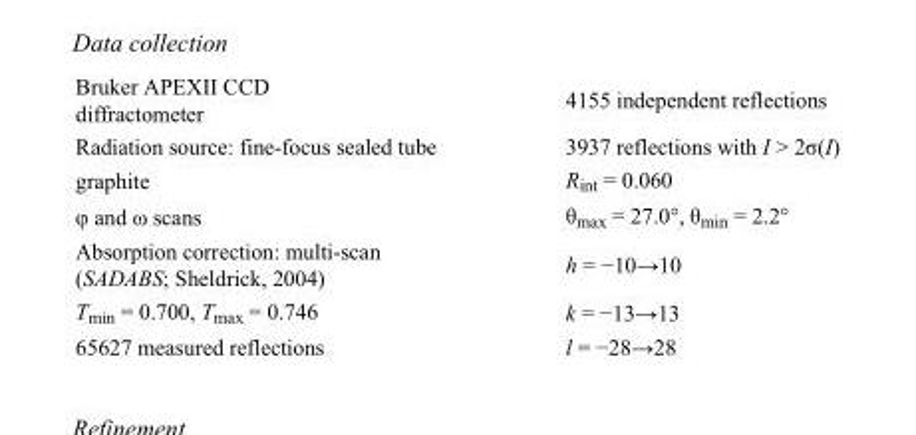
<table><tbody><tr><td>Bruker APEXII CCD diffractometer</td><td>4155 independent reflections</td></tr><tr><td>Radiation source: fine-focus sealed tube</td><td>3937 reflections with I &gt; 2σ(I)</td></tr><tr><td>graphite</td><td>R<sub>int</sub> = 0.060</td></tr><tr><td>φ and ω scans</td><td>θ<sub>max</sub> = 27.0°, θ<sub>min</sub> = 2.2°</td></tr><tr><td>Absorption correction: multi-scan (SADABS; Sheldrick, 2004)</td><td>h = −10→10</td></tr><tr><td>T<sub>min</sub> = 0.700, T<sub>max</sub> = 0.746</td><td>k = −13→13</td></tr><tr><td>65627 measured reflections</td><td>l = −28→28</td></tr></tbody></table>